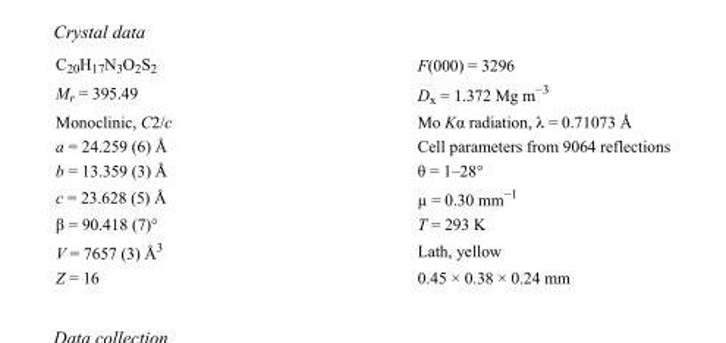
<table><tbody><tr><td>C<sub>20</sub>H<sub>17</sub>N<sub>3</sub>O<sub>2</sub>S<sub>2</sub></td><td>F(000) = 3296</td></tr><tr><td>M<sub>r</sub> = 395.49</td><td>D<sub>x</sub> = 1.372 Mg m<sup>−3</sup></td></tr><tr><td>Monoclinic, C2/c</td><td>Mo Kα radiation, λ = 0.71073 Å</td></tr><tr><td>a = 24.259 (6) Å</td><td>Cell parameters from 9064 reflections</td></tr><tr><td>b = 13.359 (3) Å</td><td>θ = 1–28°</td></tr><tr><td>c = 23.628 (5) Å</td><td>µ = 0.30 mm<sup>−1</sup></td></tr><tr><td>β = 90.418 (7)°</td><td>T = 293 K</td></tr><tr><td>V = 7657 (3) Å<sup>3</sup></td><td>Lath, yellow</td></tr><tr><td>Z = 16</td><td>0.45 × 0.38 × 0.24 mm</td></tr></tbody></table>